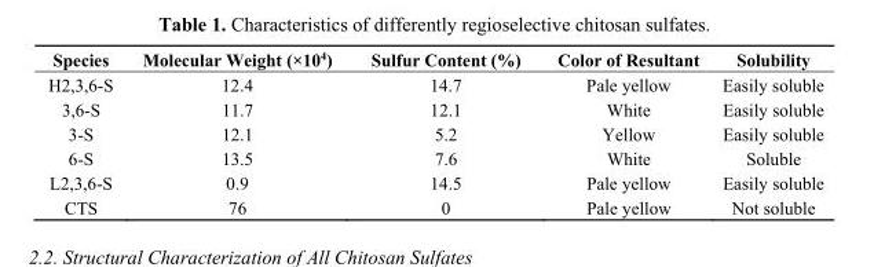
<table><thead><tr><td>Species</td><td>Molecular Weight (×10<sup>4</sup>)</td><td>Sulfur Content (%)</td><td>Color of Resultant</td><td>Solubility</td></tr></thead><tbody><tr><td>H2,3,6-S</td><td>12.4</td><td>14.7</td><td>Pale yellow</td><td>Easily soluble</td></tr><tr><td>3,6-S</td><td>11.7</td><td>12.1</td><td>White</td><td>Easily soluble</td></tr><tr><td>3-S</td><td>12.1</td><td>5.2</td><td>Yellow</td><td>Easily soluble</td></tr><tr><td>6-S</td><td>13.5</td><td>7.6</td><td>White</td><td>Soluble</td></tr><tr><td>L2,3,6-S</td><td>0.9</td><td>14.5</td><td>Pale yellow</td><td>Easily soluble</td></tr><tr><td>CTS</td><td>76</td><td>0</td><td>Pale yellow</td><td>Not soluble</td></tr></tbody></table>